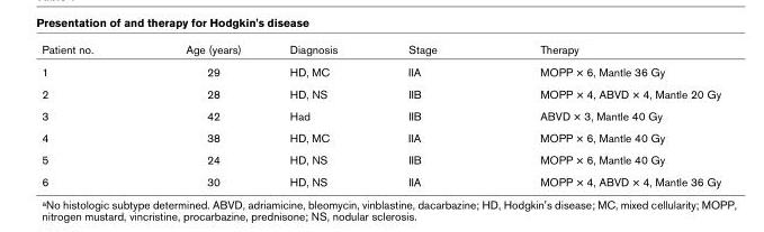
<table><thead><tr><td>Patient no.</td><td>Age (years)</td><td>Diagnosis</td><td>Stage</td><td>Therapy</td></tr></thead><tbody><tr><td>1</td><td>29</td><td>HD, MC</td><td>IIA</td><td>MOPP × 6, Mantle 36 Gy</td></tr><tr><td>2</td><td>28</td><td>HD, NS</td><td>IIB</td><td>MOPP × 4, ABVD × 4, Mantle 20 Gy</td></tr><tr><td>3</td><td>42</td><td>Had</td><td>IIB</td><td>ABVD × 3, Mantle 40 Gy</td></tr><tr><td>4</td><td>38</td><td>HD, MC</td><td>IIA</td><td>MOPP × 6, Mantle 40 Gy</td></tr><tr><td>5</td><td>24</td><td>HD, NS</td><td>IIB</td><td>MOPP × 6, Mantle 40 Gy</td></tr><tr><td>6</td><td>30</td><td>HD, NS</td><td>IIA</td><td>MOPP × 4, ABVD × 4, Mantle 36 Gy</td></tr></tbody></table>